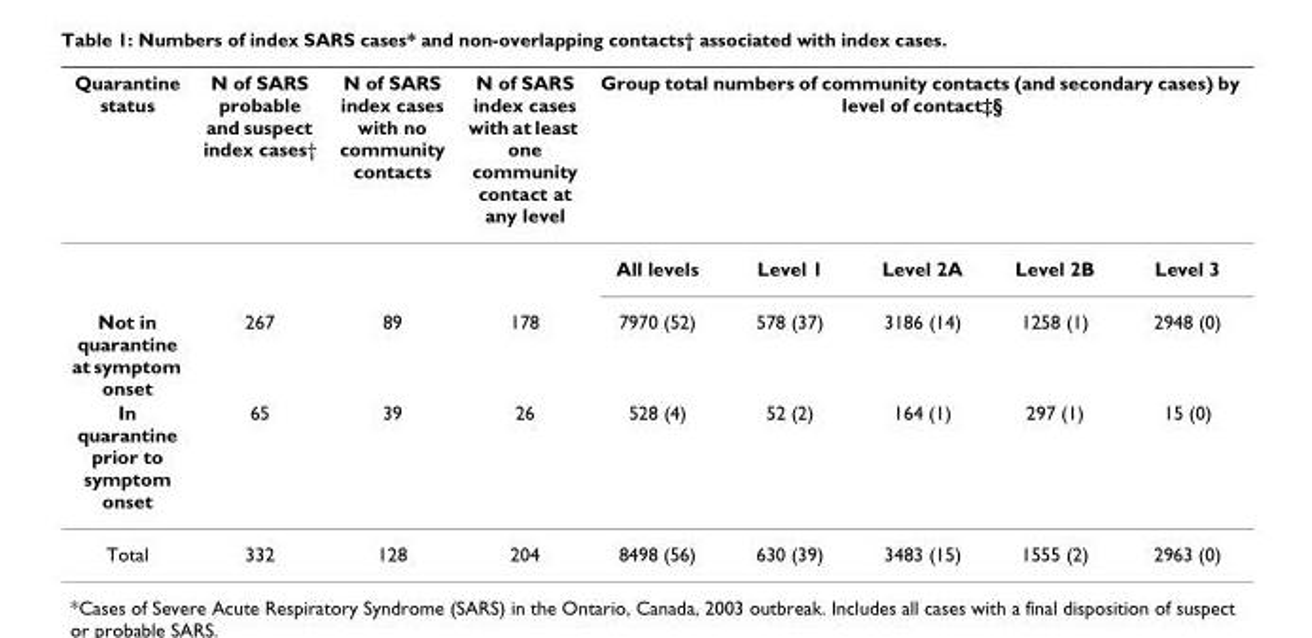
<table><thead><tr><td rowspan="2">Quarantine status</td><td rowspan="2">N of SARS probable and suspect index cases†</td><td rowspan="2">N of SARS index cases with no community contacts</td><td rowspan="2">N of SARS index cases with at least one community contact at any level</td><td colspan="5">Group total numbers of community contacts (and secondary cases) by level of contact‡§</td></tr><tr><td>All levels</td><td>Level 1</td><td>Level 2A</td><td>Level 2B</td><td>Level 3</td></tr></thead><tbody><tr><td>Not in quarantine at symptom onset</td><td>267</td><td>89</td><td>178</td><td>7970 (52)</td><td>578 (37)</td><td>3186 (14)</td><td>1258 (1)</td><td>2948 (0)</td></tr><tr><td>In quarantine prior to symptom onset</td><td>65</td><td>39</td><td>26</td><td>528 (4)</td><td>52 (2)</td><td>164 (1)</td><td>297 (1)</td><td>15 (0)</td></tr><tr><td>Total</td><td>332</td><td>128</td><td>204</td><td>8498 (56)</td><td>630 (39)</td><td>3483 (15)</td><td>1555 (2)</td><td>2963 (0)</td></tr></tbody></table>